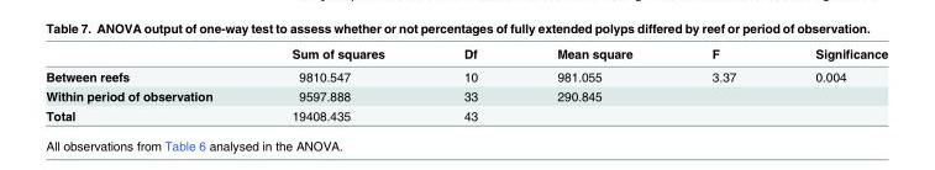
<table><thead><tr><td></td><td>Sum of squares</td><td>Df</td><td>Mean square</td><td>F</td><td>Significance</td></tr></thead><tbody><tr><td>Between reefs</td><td>9810.547</td><td>10</td><td>981.055</td><td>3.37</td><td>0.004</td></tr><tr><td>Within period of observation</td><td>9597.888</td><td>33</td><td>290.845</td><td></td><td></td></tr><tr><td>Total</td><td>19408.435</td><td>43</td><td></td><td></td><td></td></tr></tbody></table>